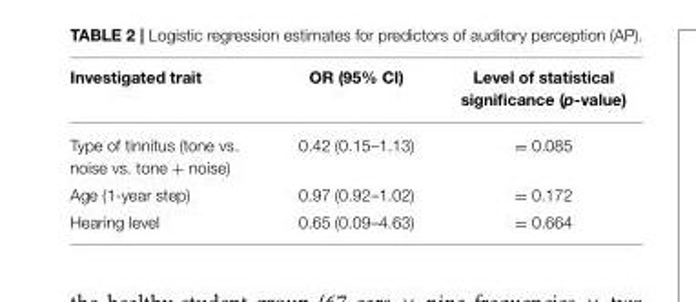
<table><thead><tr><td>Investigated trait</td><td>OR (95% CI)</td><td>Level of statistical significance (p-value)</td></tr></thead><tbody><tr><td>Type of tinnitus (tone vs. noise vs. tone + noise)</td><td>0.42 (0.15–1.13)</td><td>= 0.085</td></tr><tr><td>Age (1-year step)</td><td>0.97 (0.92–1.02)</td><td>= 0.172</td></tr><tr><td>Hearing level</td><td>0.65 (0.09–4.63)</td><td>= 0.664</td></tr></tbody></table>